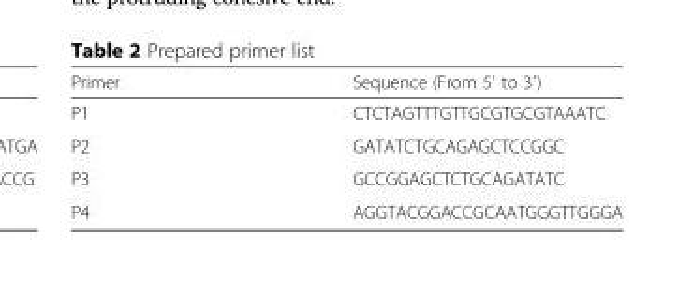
<table><thead><tr><td>Primer</td><td>Sequence (From 5′ to 3′)</td></tr></thead><tbody><tr><td>P1</td><td>CTCTAGTTTGTTGCGTGCGTAAATC</td></tr><tr><td>P2</td><td>GATATCTGCAGAGCTCCGGC</td></tr><tr><td>P3</td><td>GCCGGAGCTCTGCAGATATC</td></tr><tr><td>P4</td><td>AGGTACGGACCGCAATGGGTTGGGA</td></tr></tbody></table>